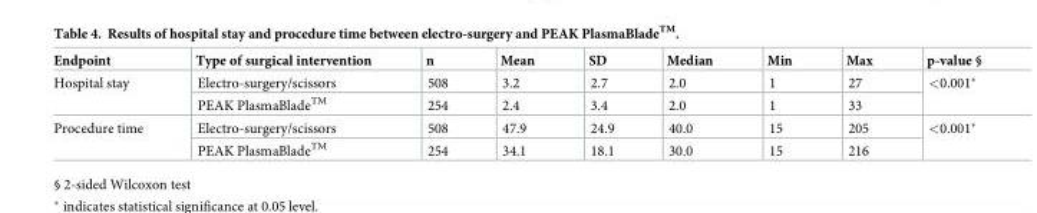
<table><thead><tr><td>Endpoint</td><td>Type of surgical intervention</td><td>n</td><td>Mean</td><td>SD</td><td>Median</td><td>Min</td><td>Max</td><td>p-value §</td></tr></thead><tbody><tr><td rowspan="2">Hospital stay</td><td>Electro-surgery/scissors</td><td>508</td><td>3.2</td><td>2.7</td><td>2.0</td><td>1</td><td>27</td><td rowspan="2">&lt;0.001*</td></tr><tr><td>PEAK PlasmaBlade<sup>TM</sup></td><td>254</td><td>2.4</td><td>3.4</td><td>2.0</td><td>1</td><td>33</td></tr><tr><td rowspan="2">Procedure time</td><td>Electro-surgery/scissors</td><td>508</td><td>47.9</td><td>24.9</td><td>40.0</td><td>15</td><td>205</td><td rowspan="2">&lt;0.001*</td></tr><tr><td>PEAK PlasmaBlade<sup>TM</sup></td><td>254</td><td>34.1</td><td>18.1</td><td>30.0</td><td>15</td><td>216</td></tr></tbody></table>